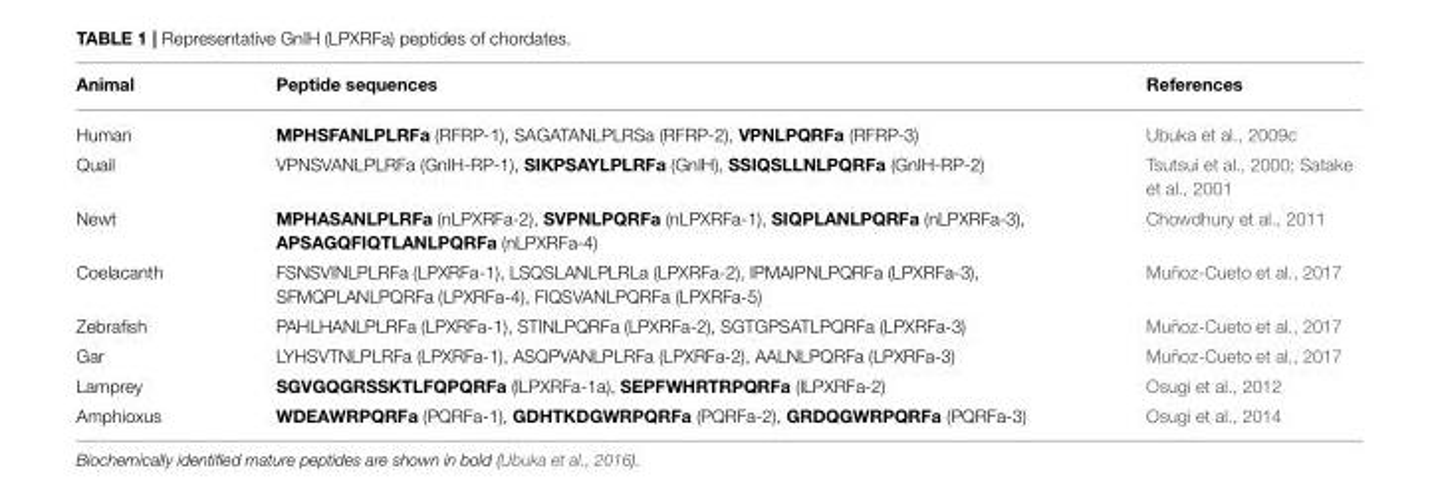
<table><thead><tr><td>Animal</td><td>Peptide sequences</td><td>References</td></tr></thead><tbody><tr><td>Human</td><td>MPHSFANLPLRFa (RFRP-1), SAGATANLPLRSa (RFRP-2), VPNLPQRFa (RFRP-3)</td><td>Ubuka et al., 2009c</td></tr><tr><td>Quail</td><td>VPNSVANLPLRFa (GnIH-RP-1), SIKPSAYLPLRFa (GnIH), SSIQSLLNLPQRFa (GnIH-RP-2)</td><td>Tsutsui et al., 2000; Satake et al., 2001</td></tr><tr><td>Newt</td><td>MPHASANLPLRFa (nLPXRFa-2), SVPNLPQRFa (nLPXRFa-1), SIQPLANLPQRFa (nLPXRFa-3), APSAGQFIQTLANLPQRFa (nLPXRFa-4)</td><td>Chowdhury et al., 2011</td></tr><tr><td>Coelacanth</td><td>FSNSVINLPLRFa (LPXRFa-1), LSQSLANLPLRLa (LPXRFa-2), IPMAIPNLPQRFa (LPXRFa-3), SFMQPLANLPQRFa (LPXRFa-4), FIQSVANLPQRFa (LPXRFa-5)</td><td>Muñoz-Cueto et al., 2017</td></tr><tr><td>Zebrafish</td><td>PAHLHANLPLRFa (LPXRFa-1), STINLPQRFa (LPXRFa-2), SGTGPSATLPQRFa (LPXRFa-3)</td><td>Muñoz-Cueto et al., 2017</td></tr><tr><td>Gar</td><td>LYHSVTNLPLRFa (LPXRFa-1), ASQPVANLPLRFa (LPXRFa-2), AALNLPQRFa (LPXRFa-3)</td><td>Muñoz-Cueto et al., 2017</td></tr><tr><td>Lamprey</td><td>SGVGQGRSSKTLFQPQRFa (lLPXRFa-1a), SEPFWHRTRPQRFa (lLPXRFa-2)</td><td>Osugi et al., 2012</td></tr><tr><td>Amphioxus</td><td>WDEAWRPQRFa (PQRFa-1), GDHTKDGWRPQRFa (PQRFa-2), GRDQGWRPQRFa (PQRFa-3)</td><td>Osugi et al., 2014</td></tr></tbody></table>